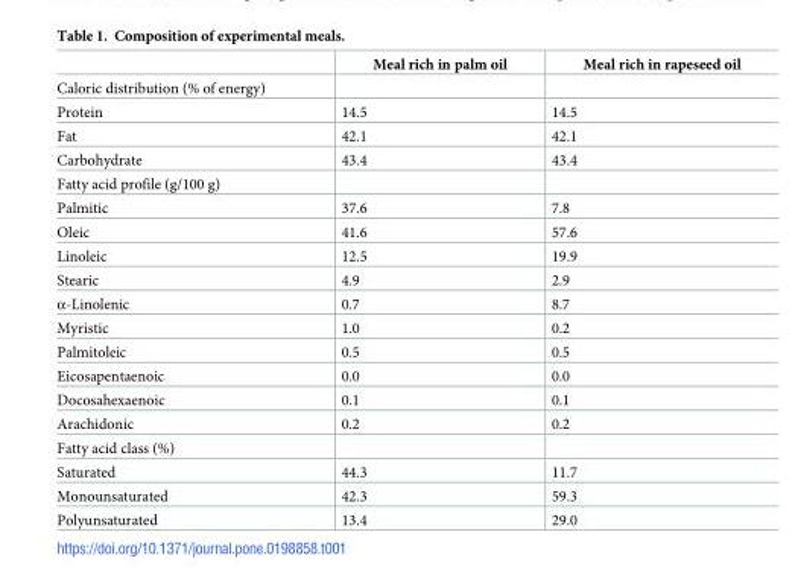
<table><thead><tr><td></td><td>Meal rich in palm oil</td><td>Meal rich in rapeseed oil</td></tr></thead><tbody><tr><td colspan="3">Caloric distribution (% of energy)</td></tr><tr><td>Protein</td><td>14.5</td><td>14.5</td></tr><tr><td>Fat</td><td>42.1</td><td>42.1</td></tr><tr><td>Carbohydrate</td><td>43.4</td><td>43.4</td></tr><tr><td colspan="3">Fatty acid profile (g/100 g)</td></tr><tr><td>Palmitic</td><td>37.6</td><td>7.8</td></tr><tr><td>Oleic</td><td>41.6</td><td>57.6</td></tr><tr><td>Linoleic</td><td>12.5</td><td>19.9</td></tr><tr><td>Stearic</td><td>4.9</td><td>2.9</td></tr><tr><td>α-Linolenic</td><td>0.7</td><td>8.7</td></tr><tr><td>Myristic</td><td>1.0</td><td>0.2</td></tr><tr><td>Palmitoleic</td><td>0.5</td><td>0.5</td></tr><tr><td>Eicosapentaenoic</td><td>0.0</td><td>0.0</td></tr><tr><td>Docosahexaenoic</td><td>0.1</td><td>0.1</td></tr><tr><td>Arachidonic</td><td>0.2</td><td>0.2</td></tr><tr><td colspan="3">Fatty acid class (%)</td></tr><tr><td>Saturated</td><td>44.3</td><td>11.7</td></tr><tr><td>Monounsaturated</td><td>42.3</td><td>59.3</td></tr><tr><td>Polyunsaturated</td><td>13.4</td><td>29.0</td></tr></tbody></table>